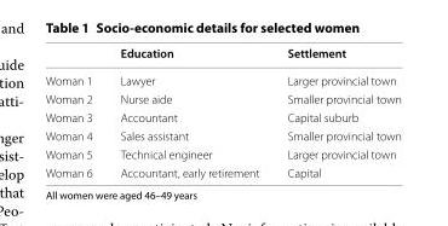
<table><thead><tr><td></td><td>Education</td><td>Settlement</td></tr></thead><tbody><tr><td>Woman 1</td><td>Lawyer</td><td>Larger provincial town</td></tr><tr><td>Woman 2</td><td>Nurse aide</td><td>Smaller provincial town</td></tr><tr><td>Woman 3</td><td>Accountant</td><td>Capital suburb</td></tr><tr><td>Woman 4</td><td>Sales assistant</td><td>Smaller provincial town</td></tr><tr><td>Woman 5</td><td>Technical engineer</td><td>Larger provincial town</td></tr><tr><td>Woman 6</td><td>Accountant, early retirement</td><td>Capital</td></tr></tbody></table>